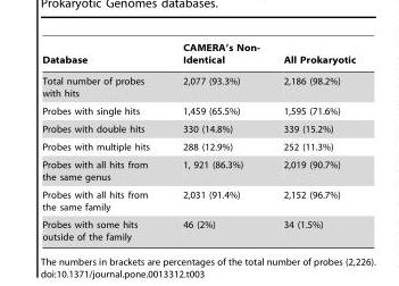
<table><thead><tr><td>Database</td><td>CAMERA’s Non- Identical</td><td>All Prokaryotic</td></tr></thead><tbody><tr><td>Total number of probes with hits</td><td>2,077 (93.3%)</td><td>2,186 (98.2%)</td></tr><tr><td>Probes with single hits</td><td>1,459 (65.5%)</td><td>1,595 (71.6%)</td></tr><tr><td>Probes with double hits</td><td>330 (14.8%)</td><td>339 (15.2%)</td></tr><tr><td>Probes with multiple hits</td><td>288 (12.9%)</td><td>252 (11.3%)</td></tr><tr><td>Probes with all hits from the same genus</td><td>1, 921 (86.3%)</td><td>2,019 (90.7%)</td></tr><tr><td>Probes with all hits from the same family</td><td>2,031 (91.4%)</td><td>2,152 (96.7%)</td></tr><tr><td>Probes with some hits outside of the family</td><td>46 (2%)</td><td>34 (1.5%)</td></tr></tbody></table>